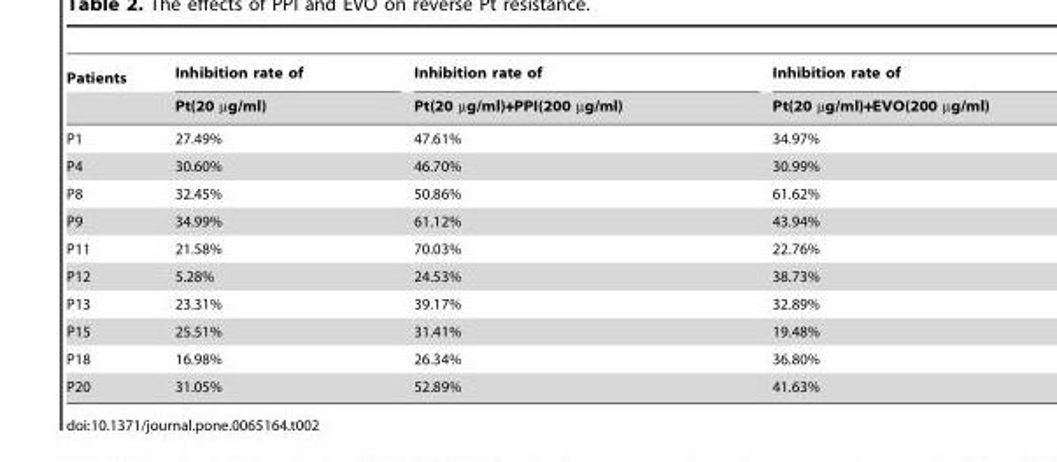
<table><thead><tr><td rowspan="2">Patients</td><td rowspan="2">Inhibition rate of Pt(20 µg/ml)</td><td rowspan="2">Inhibition rate of Pt(20 µg/ml)+PPI(200 µg/ml)</td><td rowspan="2">Inhibition rate of Pt(20 µg/ml)+EVO(200 µg/ml)</td></tr><tr></tr></thead><tbody><tr><td>P1</td><td>27.49%</td><td>47.61%</td><td>34.97%</td></tr><tr><td>P4</td><td>30.60%</td><td>46.70%</td><td>30.99%</td></tr><tr><td>P8</td><td>32.45%</td><td>50.86%</td><td>61.62%</td></tr><tr><td>P9</td><td>34.99%</td><td>61.12%</td><td>43.94%</td></tr><tr><td>P11</td><td>21.58%</td><td>70.03%</td><td>22.76%</td></tr><tr><td>P12</td><td>5.28%</td><td>24.53%</td><td>38.73%</td></tr><tr><td>P13</td><td>23.31%</td><td>39.17%</td><td>32.89%</td></tr><tr><td>P15</td><td>25.51%</td><td>31.41%</td><td>19.48%</td></tr><tr><td>P18</td><td>16.98%</td><td>26.34%</td><td>36.80%</td></tr><tr><td>P20</td><td>31.05%</td><td>52.89%</td><td>41.63%</td></tr></tbody></table>